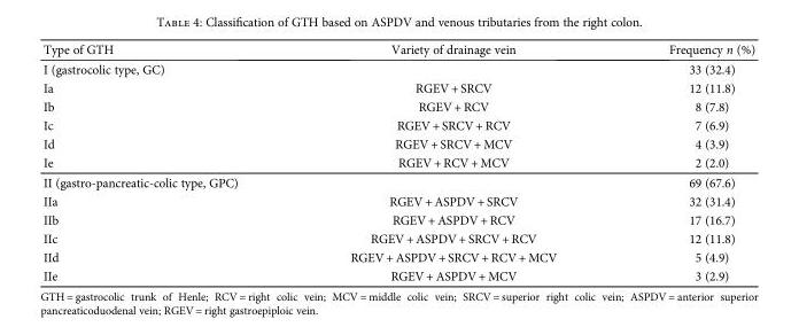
<table><thead><tr><td>Type of GTH</td><td>Variety of drainage vein</td><td>Frequency n (%)</td></tr></thead><tbody><tr><td>I (gastrocolic type, GC)</td><td></td><td>33 (32.4)</td></tr><tr><td>Ia</td><td>RGEV + SRCV</td><td>12 (11.8)</td></tr><tr><td>Ib</td><td>RGEV + RCV</td><td>8 (7.8)</td></tr><tr><td>Ic</td><td>RGEV + SRCV + RCV</td><td>7 (6.9)</td></tr><tr><td>Id</td><td>RGEV + SRCV + MCV</td><td>4 (3.9)</td></tr><tr><td>Ie</td><td>RGEV + RCV + MCV</td><td>2 (2.0)</td></tr><tr><td>II (gastro-pancreatic-colic type, GPC)</td><td></td><td>69 (67.6)</td></tr><tr><td>IIa</td><td>RGEV + ASPDV + SRCV</td><td>32 (31.4)</td></tr><tr><td>IIb</td><td>RGEV + ASPDV + RCV</td><td>17 (16.7)</td></tr><tr><td>IIc</td><td>RGEV + ASPDV + SRCV + RCV</td><td>12 (11.8)</td></tr><tr><td>IId</td><td>RGEV + ASPDV + SRCV + RCV + MCV</td><td>5 (4.9)</td></tr><tr><td>IIe</td><td>RGEV + ASPDV + MCV</td><td>3 (2.9)</td></tr></tbody></table>